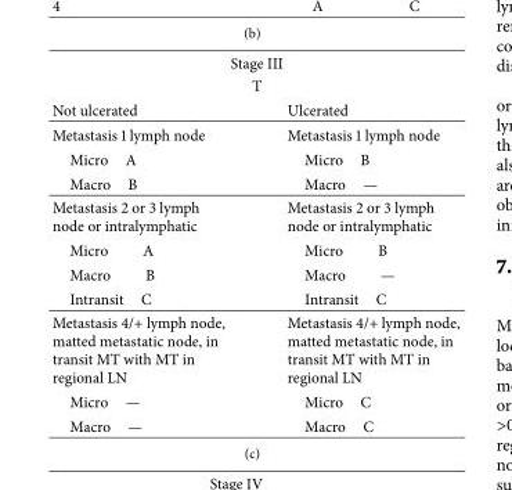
<table><thead><tr><td rowspan="2" colspan="2">Stage III T</td></tr><tr></tr><tr><td>Not ulcerated</td><td>Ulcerated</td></tr></thead><tbody><tr><td>Metastasis 1 lymph node</td><td>Metastasis 1 lymph node</td></tr><tr><td>Micro A</td><td>Micro B</td></tr><tr><td>Macro B</td><td>Macro —</td></tr><tr><td>Metastasis 2 or 3 lymph node or intralymphatic</td><td>Metastasis 2 or 3 lymph node or intralymphatic</td></tr><tr><td>Micro A</td><td>Micro B</td></tr><tr><td>Macro B</td><td>Macro —</td></tr><tr><td>Intransit C</td><td>Intransit C</td></tr><tr><td>Metastasis 4/+ lymph node, matted metastatic node, in transit MT with MT in regional LN</td><td>Metastasis 4/+ lymph node, matted metastatic node, in transit MT with MT in regional LN</td></tr><tr><td>Micro —</td><td>Micro C</td></tr><tr><td>Macro —</td><td>Macro C</td></tr></tbody></table>